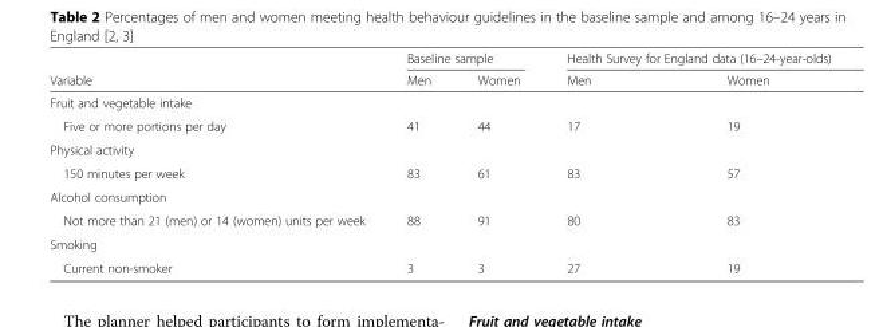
<table><thead><tr><td rowspan="2">Variable</td><td colspan="2">Baseline sample</td><td colspan="2">Health Survey for England data (16–24-year-olds)</td></tr><tr><td>Men</td><td>Women</td><td>Men</td><td>Women</td></tr></thead><tbody><tr><td colspan="5">Fruit and vegetable intake</td></tr><tr><td>Five or more portions per day</td><td>41</td><td>44</td><td>17</td><td>19</td></tr><tr><td colspan="5">Physical activity</td></tr><tr><td>150 minutes per week</td><td>83</td><td>61</td><td>83</td><td>57</td></tr><tr><td colspan="5">Alcohol consumption</td></tr><tr><td>Not more than 21 (men) or 14 (women) units per week</td><td>88</td><td>91</td><td>80</td><td>83</td></tr><tr><td colspan="5">Smoking</td></tr><tr><td>Current non-smoker</td><td>3</td><td>3</td><td>27</td><td>19</td></tr></tbody></table>